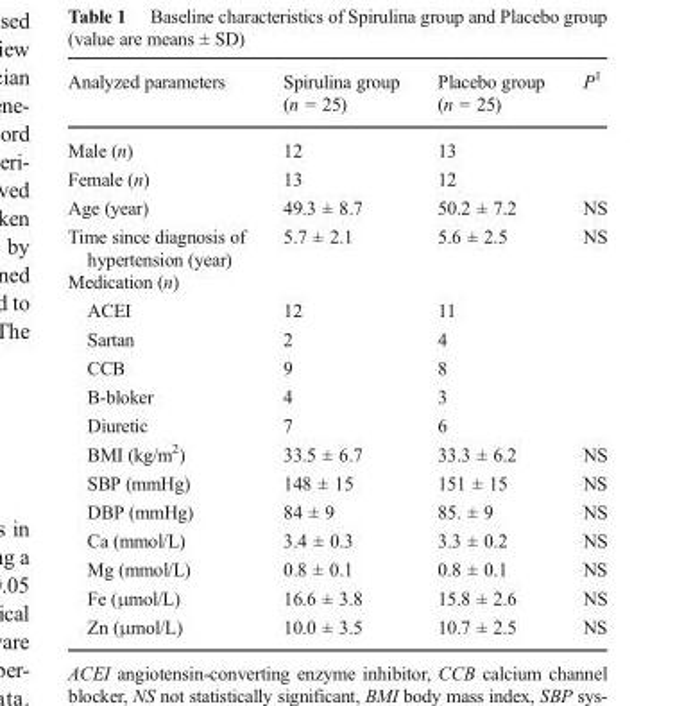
<table><thead><tr><td>Analyzed parameters</td><td>Spirulina group (n = 25)</td><td>Placebo group (n = 25)</td><td>P<sup>1</sup></td></tr></thead><tbody><tr><td>Male (n)</td><td>12</td><td>13</td><td></td></tr><tr><td>Female (n)</td><td>13</td><td>12</td><td></td></tr><tr><td>Age (year)</td><td>49.3 ± 8.7</td><td>50.2 ± 7.2</td><td>NS</td></tr><tr><td>Time since diagnosis of hypertension (year)</td><td>5.7 ± 2.1</td><td>5.6 ± 2.5</td><td>NS</td></tr><tr><td colspan="4">Medication (n)</td></tr><tr><td>ACEI</td><td>12</td><td>11</td><td></td></tr><tr><td>Sartan</td><td>2</td><td>4</td><td></td></tr><tr><td>CCB</td><td>9</td><td>8</td><td></td></tr><tr><td>Β-bloker</td><td>4</td><td>3</td><td></td></tr><tr><td>Diuretic</td><td>7</td><td>6</td><td></td></tr><tr><td>BMI (kg/m<sup>2</sup>)</td><td>33.5 ± 6.7</td><td>33.3 ± 6.2</td><td>NS</td></tr><tr><td>SBP (mmHg)</td><td>148 ± 15</td><td>151 ± 15</td><td>NS</td></tr><tr><td>DBP (mmHg)</td><td>84 ± 9</td><td>85. ± 9</td><td>NS</td></tr><tr><td>Ca (mmol/L)</td><td>3.4 ± 0.3</td><td>3.3 ± 0.2</td><td>NS</td></tr><tr><td>Mg (mmol/L)</td><td>0.8 ± 0.1</td><td>0.8 ± 0.1</td><td>NS</td></tr><tr><td>Fe (μmol/L)</td><td>16.6 ± 3.8</td><td>15.8 ± 2.6</td><td>NS</td></tr><tr><td>Zn (μmol/L)</td><td>10.0 ± 3.5</td><td>10.7 ± 2.5</td><td>NS</td></tr></tbody></table>